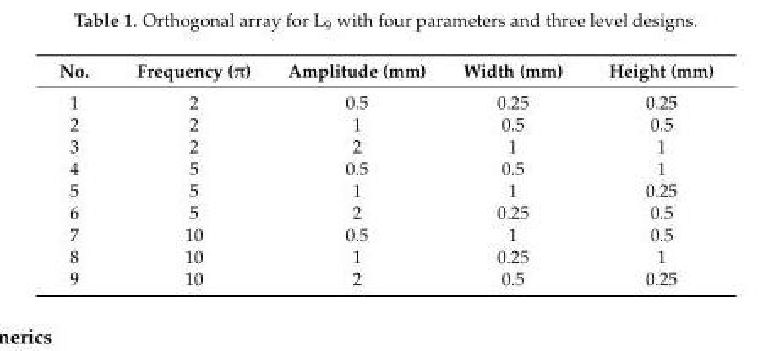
<table><thead><tr><td>No.</td><td>Frequency (π)</td><td>Amplitude (mm)</td><td>Width (mm)</td><td>Height (mm)</td></tr></thead><tbody><tr><td>1</td><td>2</td><td>0.5</td><td>0.25</td><td>0.25</td></tr><tr><td>2</td><td>2</td><td>1</td><td>0.5</td><td>0.5</td></tr><tr><td>3</td><td>2</td><td>2</td><td>1</td><td>1</td></tr><tr><td>4</td><td>5</td><td>0.5</td><td>0.5</td><td>1</td></tr><tr><td>5</td><td>5</td><td>1</td><td>1</td><td>0.25</td></tr><tr><td>6</td><td>5</td><td>2</td><td>0.25</td><td>0.5</td></tr><tr><td>7</td><td>10</td><td>0.5</td><td>1</td><td>0.5</td></tr><tr><td>8</td><td>10</td><td>1</td><td>0.25</td><td>1</td></tr><tr><td>9</td><td>10</td><td>2</td><td>0.5</td><td>0.25</td></tr></tbody></table>